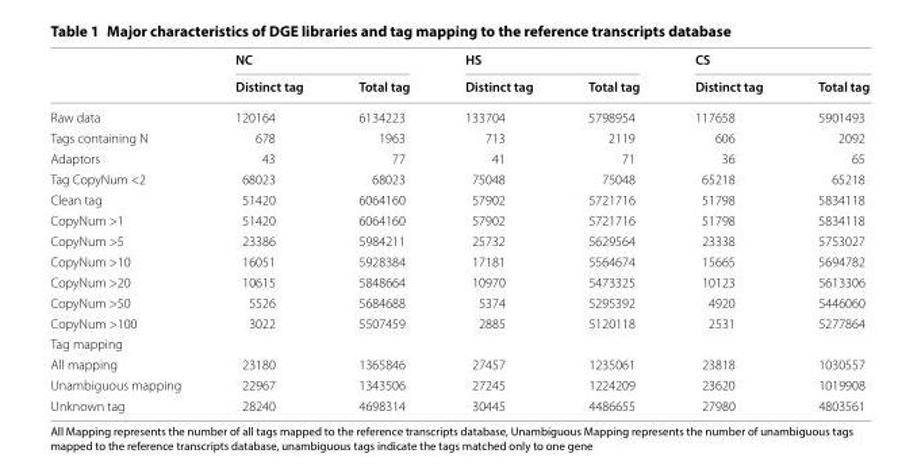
<table><thead><tr><td rowspan="2"></td><td colspan="2">NC</td><td colspan="2">HS</td><td colspan="2">CS</td></tr><tr><td>Distinct tag</td><td>Total tag</td><td>Distinct tag</td><td>Total tag</td><td>Distinct tag</td><td>Total tag</td></tr></thead><tbody><tr><td>Raw data</td><td>120164</td><td>6134223</td><td>133704</td><td>5798954</td><td>117658</td><td>5901493</td></tr><tr><td>Tags containing N</td><td>678</td><td>1963</td><td>713</td><td>2119</td><td>606</td><td>2092</td></tr><tr><td>Adaptors</td><td>43</td><td>77</td><td>41</td><td>71</td><td>36</td><td>65</td></tr><tr><td>Tag CopyNum &lt;2</td><td>68023</td><td>68023</td><td>75048</td><td>75048</td><td>65218</td><td>65218</td></tr><tr><td>Clean tag</td><td>51420</td><td>6064160</td><td>57902</td><td>5721716</td><td>51798</td><td>5834118</td></tr><tr><td>CopyNum &gt;1</td><td>51420</td><td>6064160</td><td>57902</td><td>5721716</td><td>51798</td><td>5834118</td></tr><tr><td>CopyNum &gt;5</td><td>23386</td><td>5984211</td><td>25732</td><td>5629564</td><td>23338</td><td>5753027</td></tr><tr><td>CopyNum &gt;10</td><td>16051</td><td>5928384</td><td>17181</td><td>5564674</td><td>15665</td><td>5694782</td></tr><tr><td>CopyNum &gt;20</td><td>10615</td><td>5848664</td><td>10970</td><td>5473325</td><td>10123</td><td>5613306</td></tr><tr><td>CopyNum &gt;50</td><td>5526</td><td>5684688</td><td>5374</td><td>5295392</td><td>4920</td><td>5446060</td></tr><tr><td>CopyNum &gt;100</td><td>3022</td><td>5507459</td><td>2885</td><td>5120118</td><td>2531</td><td>5277864</td></tr><tr><td colspan="7">Tag mapping</td></tr><tr><td>All mapping</td><td>23180</td><td>1365846</td><td>27457</td><td>1235061</td><td>23818</td><td>1030557</td></tr><tr><td>Unambiguous mapping</td><td>22967</td><td>1343506</td><td>27245</td><td>1224209</td><td>23620</td><td>1019908</td></tr><tr><td>Unknown tag</td><td>28240</td><td>4698314</td><td>30445</td><td>4486655</td><td>27980</td><td>4803561</td></tr></tbody></table>